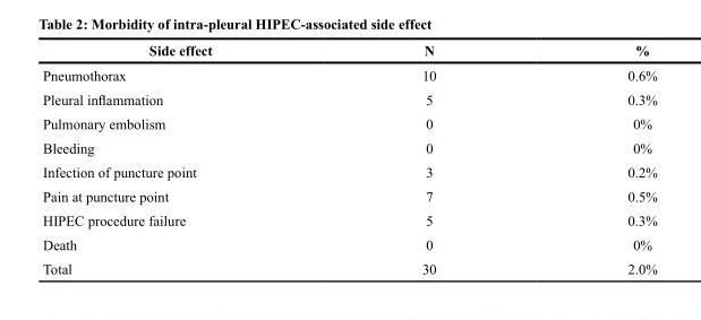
<table><thead><tr><td>Side effect</td><td>N</td><td>%</td></tr></thead><tbody><tr><td>Pneumothorax</td><td>10</td><td>0.6%</td></tr><tr><td>Pleural inflammation</td><td>5</td><td>0.3%</td></tr><tr><td>Pulmonary embolism</td><td>0</td><td>0%</td></tr><tr><td>Bleeding</td><td>0</td><td>0%</td></tr><tr><td>Infection of puncture point</td><td>3</td><td>0.2%</td></tr><tr><td>Pain at puncture point</td><td>7</td><td>0.5%</td></tr><tr><td>HIPEC procedure failure</td><td>5</td><td>0.3%</td></tr><tr><td>Death</td><td>0</td><td>0%</td></tr><tr><td>Total</td><td>30</td><td>2.0%</td></tr></tbody></table>